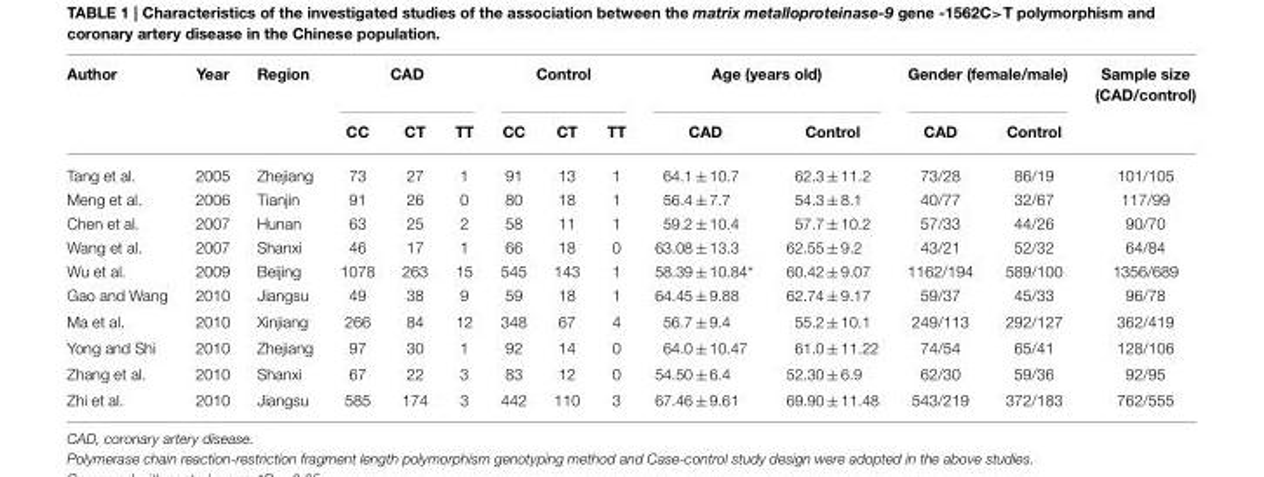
<table><thead><tr><td rowspan="2">Author</td><td rowspan="2">Year</td><td rowspan="2">Region</td><td colspan="3">CAD</td><td colspan="3">Control</td><td colspan="2">Age (years old)</td><td colspan="2">Gender (female/male)</td><td rowspan="2">Sample size (CAD/control)</td></tr><tr><td>CC</td><td>CT</td><td>TT</td><td>CC</td><td>CT</td><td>TT</td><td>CAD</td><td>Control</td><td>CAD</td><td>Control</td></tr></thead><tbody><tr><td>Tang et al.</td><td>2005</td><td>Zhejiang</td><td>73</td><td>27</td><td>1</td><td>91</td><td>13</td><td>1</td><td>64.1 ± 10.7</td><td>62.3 ± 11.2</td><td>73/28</td><td>86/19</td><td>101/105</td></tr><tr><td>Meng et al.</td><td>2006</td><td>Tianjin</td><td>91</td><td>26</td><td>0</td><td>80</td><td>18</td><td>1</td><td>56.4 ± 7.7</td><td>54.3 ± 8.1</td><td>40/77</td><td>32/67</td><td>117/99</td></tr><tr><td>Chen et al.</td><td>2007</td><td>Hunan</td><td>63</td><td>25</td><td>2</td><td>58</td><td>11</td><td>1</td><td>59.2 ± 10.4</td><td>57.7 ± 10.2</td><td>57/33</td><td>44/26</td><td>90/70</td></tr><tr><td>Wang et al.</td><td>2007</td><td>Shanxi</td><td>46</td><td>17</td><td>1</td><td>66</td><td>18</td><td>0</td><td>63.08 ± 13.3</td><td>62.55 ± 9.2</td><td>43/21</td><td>52/32</td><td>64/84</td></tr><tr><td>Wu et al.</td><td>2009</td><td>Beijing</td><td>1078</td><td>263</td><td>15</td><td>545</td><td>143</td><td>1</td><td>58.39 ± 10.84*</td><td>60.42 ± 9.07</td><td>1162/194</td><td>589/100</td><td>1356/689</td></tr><tr><td>Gao and Wang</td><td>2010</td><td>Jiangsu</td><td>49</td><td>38</td><td>9</td><td>59</td><td>18</td><td>1</td><td>64.45 ± 9.88</td><td>62.74 ± 9.17</td><td>59/37</td><td>45/33</td><td>96/78</td></tr><tr><td>Ma et al.</td><td>2010</td><td>Xinjiang</td><td>266</td><td>84</td><td>12</td><td>348</td><td>67</td><td>4</td><td>56.7 ± 9.4</td><td>55.2 ± 10.1</td><td>249/113</td><td>292/127</td><td>362/419</td></tr><tr><td>Yong and Shi</td><td>2010</td><td>Zhejiang</td><td>97</td><td>30</td><td>1</td><td>92</td><td>14</td><td>0</td><td>64.0 ± 10.47</td><td>61.0 ± 11.22</td><td>74/54</td><td>65/41</td><td>128/106</td></tr><tr><td>Zhang et al.</td><td>2010</td><td>Shanxi</td><td>67</td><td>22</td><td>3</td><td>83</td><td>12</td><td>0</td><td>54.50 ± 6.4</td><td>52.30 ± 6.9</td><td>62/30</td><td>59/36</td><td>92/95</td></tr><tr><td>Zhi et al.</td><td>2010</td><td>Jiangsu</td><td>585</td><td>174</td><td>3</td><td>442</td><td>110</td><td>3</td><td>67.46 ± 9.61</td><td>69.90 ± 11.48</td><td>543/219</td><td>372/183</td><td>762/555</td></tr></tbody></table>